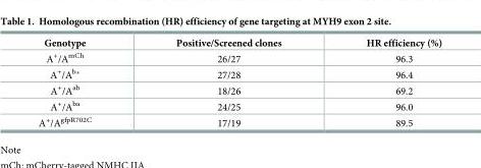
<table><thead><tr><td>Genotype</td><td>Positive/Screened clones</td><td>HR efficiency (%)</td></tr></thead><tbody><tr><td>A<sup>+</sup>/A<sup>mCh</sup></td><td>26/27</td><td>96.3</td></tr><tr><td>A<sup>+</sup>/A<sup>b</sup>*</td><td>27/28</td><td>96.4</td></tr><tr><td>A<sup>+</sup>/A<sup>ab</sup></td><td>18/26</td><td>69.2</td></tr><tr><td>A<sup>+</sup>/A<sup>ba</sup></td><td>24/25</td><td>96.0</td></tr><tr><td>A<sup>+</sup>/A<sup>gfpR702C</sup></td><td>17/19</td><td>89.5</td></tr></tbody></table>